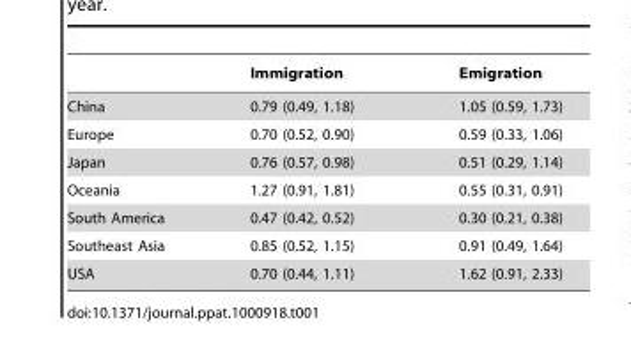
<table><thead><tr><td></td><td>Immigration</td><td>Emigration</td></tr></thead><tbody><tr><td>China</td><td>0.79 (0.49, 1.18)</td><td>1.05 (0.59, 1.73)</td></tr><tr><td>Europe</td><td>0.70 (0.52, 0.90)</td><td>0.59 (0.33, 1.06)</td></tr><tr><td>Japan</td><td>0.76 (0.57, 0.98)</td><td>0.51 (0.29, 1.14)</td></tr><tr><td>Oceania</td><td>1.27 (0.91, 1.81)</td><td>0.55 (0.31, 0.91)</td></tr><tr><td>South America</td><td>0.47 (0.42, 0.52)</td><td>0.30 (0.21, 0.38)</td></tr><tr><td>Southeast Asia</td><td>0.85 (0.52, 1.15)</td><td>0.91 (0.49, 1.64)</td></tr><tr><td>USA</td><td>0.70 (0.44, 1.11)</td><td>1.62 (0.91, 2.33)</td></tr></tbody></table>